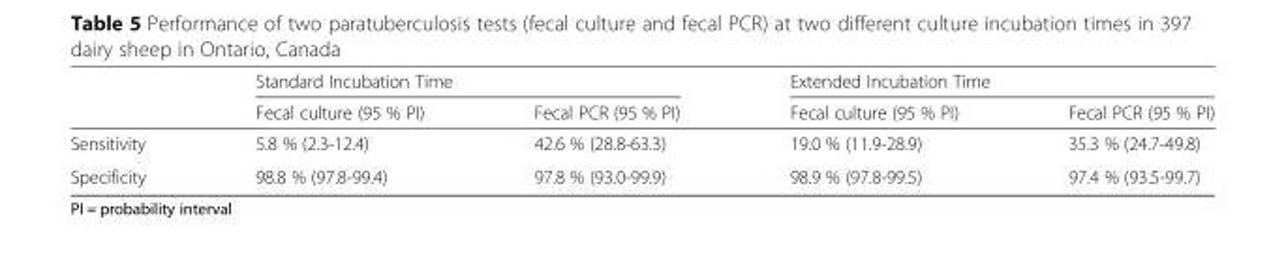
<table><thead><tr><td rowspan="2"></td><td colspan="2">Standard Incubation Time</td><td colspan="2">Extended Incubation Time</td></tr><tr><td>Fecal culture (95 % PI)</td><td>Fecal PCR (95 % PI)</td><td>Fecal culture (95 % PI)</td><td>Fecal PCR (95 % PI)</td></tr></thead><tbody><tr><td>Sensitivity</td><td>5.8 % (2.3-12.4)</td><td>42.6 % (28.8-63.3)</td><td>19.0 % (11.9-28.9)</td><td>35.3 % (24.7-49.8)</td></tr><tr><td>Specificity</td><td>98.8 % (97.8-99.4)</td><td>97.8 % (93.0-99.9)</td><td>98.9 % (97.8-99.5)</td><td>97.4 % (93.5-99.7)</td></tr></tbody></table>